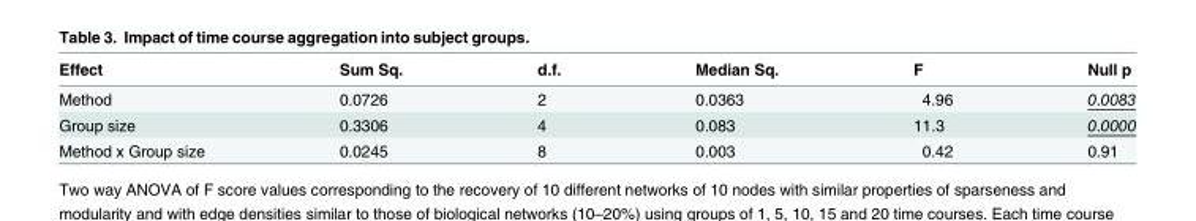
<table><thead><tr><td>Effect</td><td>Sum Sq.</td><td>d.f.</td><td>Median Sq.</td><td>F</td><td>Null p</td></tr></thead><tbody><tr><td>Method</td><td>0.0726</td><td>2</td><td>0.0363</td><td>4.96</td><td>0.0083</td></tr><tr><td>Group size</td><td>0.3306</td><td>4</td><td>0.083</td><td>11.3</td><td>0.0000</td></tr><tr><td>Method x Group size</td><td>0.0245</td><td>8</td><td>0.003</td><td>0.42</td><td>0.91</td></tr></tbody></table>